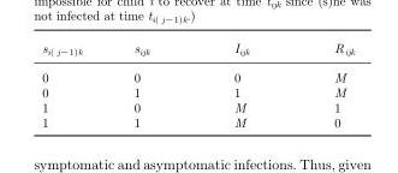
<table><thead><tr><td>si( j−1)k</td><td>sijk</td><td>Iijk</td><td>Rijk</td></tr></thead><tbody><tr><td>0</td><td>0</td><td>0</td><td>M</td></tr><tr><td>0</td><td>1</td><td>1</td><td>M</td></tr><tr><td>1</td><td>0</td><td>M</td><td>1</td></tr><tr><td>1</td><td>1</td><td>M</td><td>0</td></tr></tbody></table>